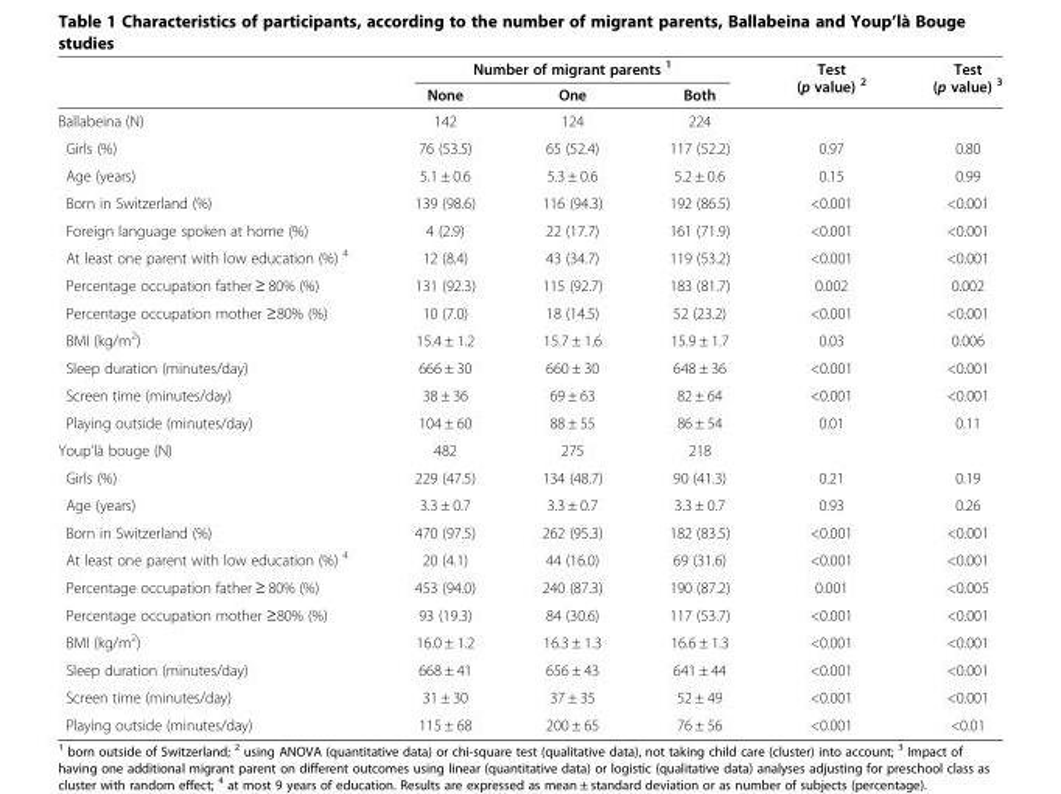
<table><thead><tr><td rowspan="2"></td><td colspan="3">Number of migrant parents <sup>1</sup></td><td rowspan="2">Test (p value) <sup>2</sup></td><td rowspan="2">Test (p value) <sup>3</sup></td></tr><tr><td>None</td><td>One</td><td>Both</td></tr></thead><tbody><tr><td>Ballabeina (N)</td><td>142</td><td>124</td><td>224</td><td></td><td></td></tr><tr><td>Girls (%)</td><td>76 (53.5)</td><td>65 (52.4)</td><td>117 (52.2)</td><td>0.97</td><td>0.80</td></tr><tr><td>Age (years)</td><td>5.1 ± 0.6</td><td>5.3 ± 0.6</td><td>5.2 ± 0.6</td><td>0.15</td><td>0.99</td></tr><tr><td>Born in Switzerland (%)</td><td>139 (98.6)</td><td>116 (94.3)</td><td>192 (86.5)</td><td>&lt;0.001</td><td>&lt;0.001</td></tr><tr><td>Foreign language spoken at home (%)</td><td>4 (2.9)</td><td>22 (17.7)</td><td>161 (71.9)</td><td>&lt;0.001</td><td>&lt;0.001</td></tr><tr><td>At least one parent with low education (%) <sup>4</sup></td><td>12 (8.4)</td><td>43 (34.7)</td><td>119 (53.2)</td><td>&lt;0.001</td><td>&lt;0.001</td></tr><tr><td>Percentage occupation father ≥ 80% (%)</td><td>131 (92.3)</td><td>115 (92.7)</td><td>183 (81.7)</td><td>0.002</td><td>0.002</td></tr><tr><td>Percentage occupation mother ≥80% (%)</td><td>10 (7.0)</td><td>18 (14.5)</td><td>52 (23.2)</td><td>&lt;0.001</td><td>&lt;0.001</td></tr><tr><td>BMI (kg/m<sup>2</sup>)</td><td>15.4 ± 1.2</td><td>15.7 ± 1.6</td><td>15.9 ± 1.7</td><td>0.03</td><td>0.006</td></tr><tr><td>Sleep duration (minutes/day)</td><td>666 ± 30</td><td>660 ± 30</td><td>648 ± 36</td><td>&lt;0.001</td><td>&lt;0.001</td></tr><tr><td>Screen time (minutes/day)</td><td>38 ± 36</td><td>69 ± 63</td><td>82 ± 64</td><td>&lt;0.001</td><td>&lt;0.001</td></tr><tr><td>Playing outside (minutes/day)</td><td>104 ± 60</td><td>88 ± 55</td><td>86 ± 54</td><td>0.01</td><td>0.11</td></tr><tr><td>Youp’là bouge (N)</td><td>482</td><td>275</td><td>218</td><td></td><td></td></tr><tr><td>Girls (%)</td><td>229 (47.5)</td><td>134 (48.7)</td><td>90 (41.3)</td><td>0.21</td><td>0.19</td></tr><tr><td>Age (years)</td><td>3.3 ± 0.7</td><td>3.3 ± 0.7</td><td>3.3 ± 0.7</td><td>0.93</td><td>0.26</td></tr><tr><td>Born in Switzerland (%)</td><td>470 (97.5)</td><td>262 (95.3)</td><td>182 (83.5)</td><td>&lt;0.001</td><td>&lt;0.001</td></tr><tr><td>At least one parent with low education (%) <sup>4</sup></td><td>20 (4.1)</td><td>44 (16.0)</td><td>69 (31.6)</td><td>&lt;0.001</td><td>&lt;0.001</td></tr><tr><td>Percentage occupation father ≥ 80% (%)</td><td>453 (94.0)</td><td>240 (87.3)</td><td>190 (87.2)</td><td>0.001</td><td>&lt;0.005</td></tr><tr><td>Percentage occupation mother ≥80% (%)</td><td>93 (19.3)</td><td>84 (30.6)</td><td>117 (53.7)</td><td>&lt;0.001</td><td>&lt;0.001</td></tr><tr><td>BMI (kg/m<sup>2</sup>)</td><td>16.0 ± 1.2</td><td>16.3 ± 1.3</td><td>16.6 ± 1.3</td><td>&lt;0.001</td><td>&lt;0.001</td></tr><tr><td>Sleep duration (minutes/day)</td><td>668 ± 41</td><td>656 ± 43</td><td>641 ± 44</td><td>&lt;0.001</td><td>&lt;0.001</td></tr><tr><td>Screen time (minutes/day)</td><td>31 ± 30</td><td>37 ± 35</td><td>52 ± 49</td><td>&lt;0.001</td><td>&lt;0.001</td></tr><tr><td>Playing outside (minutes/day)</td><td>115 ± 68</td><td>200 ± 65</td><td>76 ± 56</td><td>&lt;0.001</td><td>&lt;0.01</td></tr></tbody></table>